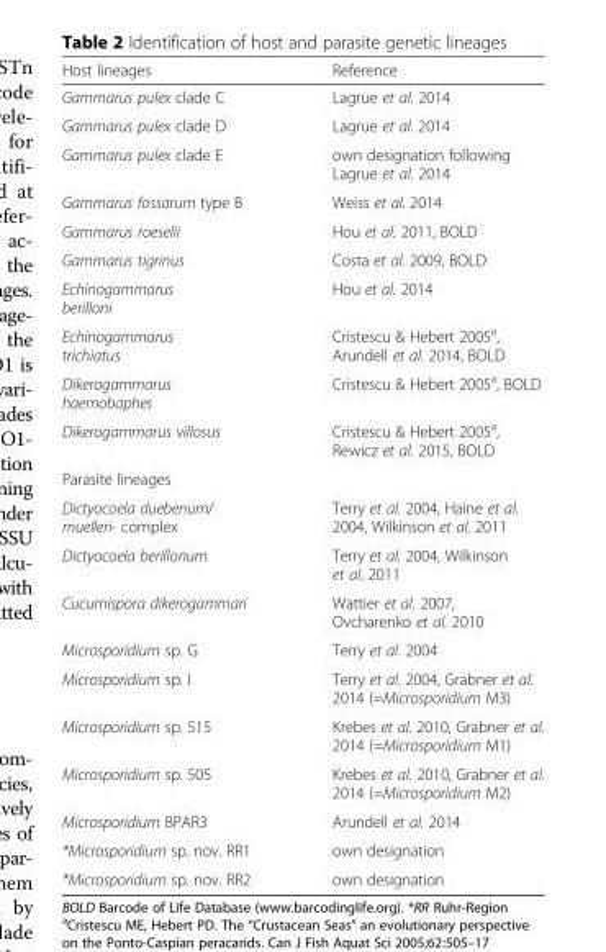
<table><thead><tr><td>Host lineages</td><td>Reference</td></tr></thead><tbody><tr><td>Gammarus pulex clade C</td><td>Lagrue et al. 2014</td></tr><tr><td>Gammarus pulex clade D</td><td>Lagrue et al. 2014</td></tr><tr><td>Gammarus pulex clade E</td><td>own designation following Lagrue et al. 2014</td></tr><tr><td>Gammarus fossarum type B</td><td>Weiss et al. 2014</td></tr><tr><td>Gammarus roeselii</td><td>Hou et al. 2011, BOLD</td></tr><tr><td>Gammarus tigrinus</td><td>Costa et al. 2009, BOLD</td></tr><tr><td>Echinogammarus berilloni</td><td>Hou et al. 2014</td></tr><tr><td>Echinogammarus trichiatus</td><td>Cristescu &amp; Hebert 2005<sup>a</sup>, Arundell et al. 2014, BOLD</td></tr><tr><td>Dikerogammarus haemobaphes</td><td>Cristescu &amp; Hebert 2005<sup>a</sup>, BOLD</td></tr><tr><td>Dikerogammarus villosus</td><td>Cristescu &amp; Hebert 2005<sup>a</sup>, Rewicz et al. 2015, BOLD</td></tr><tr><td colspan="2">Parasite lineages</td></tr><tr><td>Dictyocoela duebenum/ muelleri- complex</td><td>Terry et al. 2004, Haine et al. 2004, Wilkinson et al. 2011</td></tr><tr><td>Dictyocoela berillonum</td><td>Terry et al. 2004, Wilkinson et al. 2011</td></tr><tr><td>Cucumispora dikerogammari</td><td>Wattier et al. 2007, Ovcharenko et al. 2010</td></tr><tr><td>Microsporidium sp. G</td><td>Terry et al. 2004</td></tr><tr><td>Microsporidium sp. I</td><td>Terry et al. 2004, Grabner et al. 2014 (=Microsporidium M3)</td></tr><tr><td>Microsporidium sp. 515</td><td>Krebes et al. 2010, Grabner et al. 2014 (=Microsporidium M1)</td></tr><tr><td>Microsporidium sp. 505</td><td>Krebes et al. 2010, Grabner et al. 2014 (=Microsporidium M2)</td></tr><tr><td>Microsporidium BPAR3</td><td>Arundell et al. 2014</td></tr><tr><td>*Microsporidium sp. nov. RR1</td><td>own designation</td></tr><tr><td>*Microsporidium sp. nov. RR2</td><td>own designation</td></tr></tbody></table>